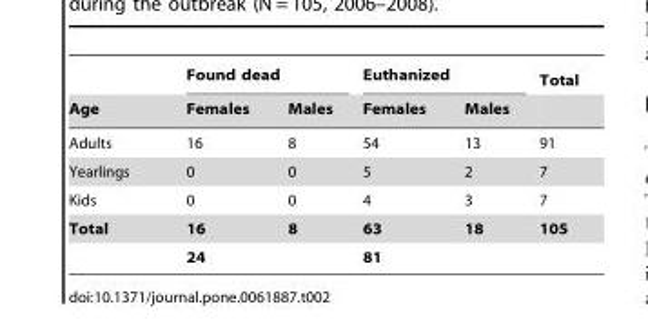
<table><thead><tr><td rowspan="2">Age</td><td colspan="2">Found dead</td><td colspan="2">Euthanized</td><td rowspan="2">Total</td></tr><tr><td>Females</td><td>Males</td><td>Females</td><td>Males</td></tr></thead><tbody><tr><td>Adults</td><td>16</td><td>8</td><td>54</td><td>13</td><td>91</td></tr><tr><td>Yearlings</td><td>0</td><td>0</td><td>5</td><td>2</td><td>7</td></tr><tr><td>Kids</td><td>0</td><td>0</td><td>4</td><td>3</td><td>7</td></tr><tr><td rowspan="2">Total</td><td>16</td><td>8</td><td>63</td><td>18</td><td>105</td></tr><tr><td colspan="2">24</td><td colspan="2">81</td><td></td></tr></tbody></table>